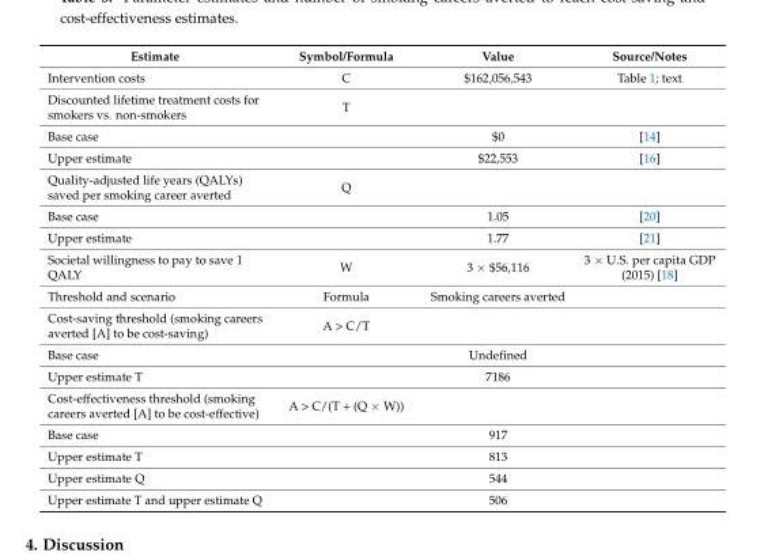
<table><thead><tr><td>Estimate</td><td>Symbol/Formula</td><td>Value</td><td>Source/Notes</td></tr></thead><tbody><tr><td>Intervention costs</td><td>C</td><td>$162,056,543</td><td>Table 1; text</td></tr><tr><td>Discounted lifetime treatment costs for smokers vs. non-smokers</td><td>T</td><td></td><td></td></tr><tr><td>Base case</td><td></td><td>$0</td><td>[14]</td></tr><tr><td>Upper estimate</td><td></td><td>$22,553</td><td>[16]</td></tr><tr><td>Quality-adjusted life years (QALYs) saved per smoking career averted</td><td>Q</td><td></td><td></td></tr><tr><td>Base case</td><td></td><td>1.05</td><td>[20]</td></tr><tr><td>Upper estimate</td><td></td><td>1.77</td><td>[21]</td></tr><tr><td>Societal willingness to pay to save 1 QALY</td><td>W</td><td>3 × $56,116</td><td>3 × U.S. per capita GDP (2015) [18]</td></tr><tr><td>Threshold and scenario</td><td>Formula</td><td>Smoking careers averted</td><td></td></tr><tr><td>Cost-saving threshold (smoking careers averted [A] to be cost-saving)</td><td>A &gt; C/T</td><td></td><td></td></tr><tr><td>Base case</td><td></td><td>Undefined</td><td></td></tr><tr><td>Upper estimate T</td><td></td><td>7186</td><td></td></tr><tr><td>Cost-effectiveness threshold (smoking careers averted [A] to be cost-effective)</td><td>A &gt; C/(T + (Q × W))</td><td></td><td></td></tr><tr><td>Base case</td><td></td><td>917</td><td></td></tr><tr><td>Upper estimate T</td><td></td><td>813</td><td></td></tr><tr><td>Upper estimate Q</td><td></td><td>544</td><td></td></tr><tr><td>Upper estimate T and upper estimate Q</td><td></td><td>506</td><td></td></tr></tbody></table>